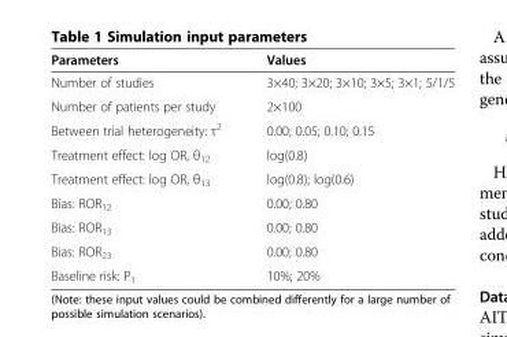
<table><thead><tr><td>Parameters</td><td>Values</td></tr></thead><tbody><tr><td>Number of studies</td><td>3×40; 3×20; 3×10; 3×5; 3×1; 5/1/5</td></tr><tr><td>Number of patients per study</td><td>2×100</td></tr><tr><td>Between trial heterogeneity: τ<sup>2</sup></td><td>0.00; 0.05; 0.10; 0.15</td></tr><tr><td>Treatment effect: log OR, θ<sub>12</sub></td><td>log(0.8)</td></tr><tr><td>Treatment effect: log OR, θ<sub>13</sub></td><td>log(0.8); log(0.6)</td></tr><tr><td>Bias: ROR<sub>12</sub></td><td>0.00; 0.80</td></tr><tr><td>Bias: ROR<sub>13</sub></td><td>0.00; 0.80</td></tr><tr><td>Bias: ROR<sub>23</sub></td><td>0.00; 0.80</td></tr><tr><td>Baseline risk: P<sub>1</sub></td><td>10%; 20%</td></tr></tbody></table>